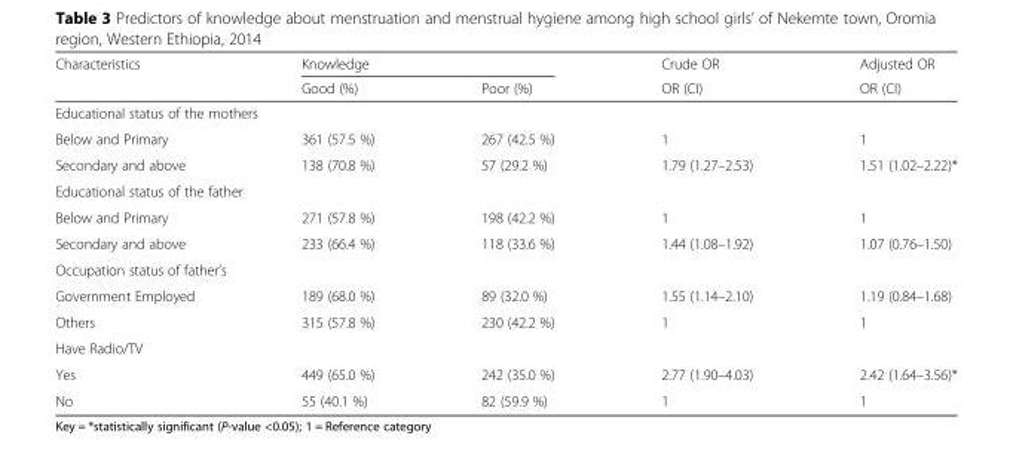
<table><thead><tr><td rowspan="2">Characteristics</td><td colspan="2">Knowledge</td><td rowspan="2">Crude OR OR (CI)</td><td rowspan="2">Adjusted OR OR (CI)</td></tr><tr><td>Good (%)</td><td>Poor (%)</td></tr></thead><tbody><tr><td colspan="5">Educational status of the mothers</td></tr><tr><td>Below and Primary</td><td>361 (57.5 %)</td><td>267 (42.5 %)</td><td>1</td><td>1</td></tr><tr><td>Secondary and above</td><td>138 (70.8 %)</td><td>57 (29.2 %)</td><td>1.79 (1.27–2.53)</td><td>1.51 (1.02–2.22)*</td></tr><tr><td colspan="5">Educational status of the father</td></tr><tr><td>Below and Primary</td><td>271 (57.8 %)</td><td>198 (42.2 %)</td><td>1</td><td>1</td></tr><tr><td>Secondary and above</td><td>233 (66.4 %)</td><td>118 (33.6 %)</td><td>1.44 (1.08–1.92)</td><td>1.07 (0.76–1.50)</td></tr><tr><td colspan="5">Occupation status of father’s</td></tr><tr><td>Government Employed</td><td>189 (68.0 %)</td><td>89 (32.0 %)</td><td>1.55 (1.14–2.10)</td><td>1.19 (0.84–1.68)</td></tr><tr><td>Others</td><td>315 (57.8 %)</td><td>230 (42.2 %)</td><td>1</td><td>1</td></tr><tr><td colspan="5">Have Radio/TV</td></tr><tr><td>Yes</td><td>449 (65.0 %)</td><td>242 (35.0 %)</td><td>2.77 (1.90–4.03)</td><td>2.42 (1.64–3.56)*</td></tr><tr><td>No</td><td>55 (40.1 %)</td><td>82 (59.9 %)</td><td>1</td><td>1</td></tr></tbody></table>